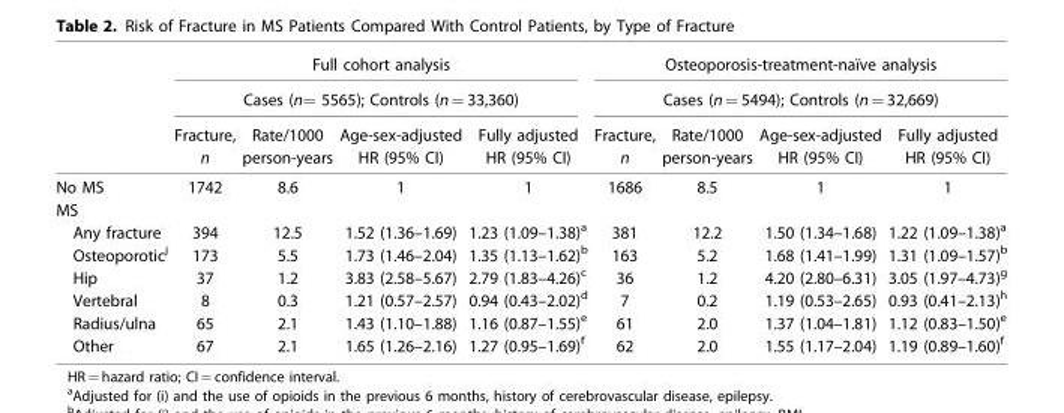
<table><thead><tr><td rowspan="3"></td><td rowspan="2" colspan="4">Full cohort analysis Cases (n¼ 5565); Controls (n ¼ 33,360)</td><td rowspan="2" colspan="4">Osteoporosis-treatment-naı¨ve analysis Cases (n ¼ 5494); Controls (n ¼ 32,669)</td></tr><tr></tr><tr><td>Fracture, n</td><td>Rate/1000 person-years</td><td>Age-sex-adjusted HR (95% CI)</td><td>Fully adjusted HR (95% CI)</td><td>Fracture, n</td><td>Rate/1000 person-years</td><td>Age-sex-adjusted HR (95% CI)</td><td>Fully adjusted HR (95% CI)</td></tr></thead><tbody><tr><td>No MS</td><td>1742</td><td>8.6</td><td>1</td><td>1</td><td>1686</td><td>8.5</td><td>1</td><td>1</td></tr><tr><td colspan="9">MS</td></tr><tr><td>Any fracture</td><td>394</td><td>12.5</td><td>1.52 (1.36–1.69)</td><td>1.23 (1.09–1.38)<sup>a</sup></td><td>381</td><td>12.2</td><td>1.50 (1.34–1.68)</td><td>1.22 (1.09–1.38)<sup>a</sup></td></tr><tr><td>Osteoporotic<sup>j</sup></td><td>173</td><td>5.5</td><td>1.73 (1.46–2.04)</td><td>1.35 (1.13–1.62)<sup>b</sup></td><td>163</td><td>5.2</td><td>1.68 (1.41–1.99)</td><td>1.31 (1.09–1.57)<sup>b</sup></td></tr><tr><td>Hip</td><td>37</td><td>1.2</td><td>3.83 (2.58–5.67)</td><td>2.79 (1.83–4.26)<sup>c</sup></td><td>36</td><td>1.2</td><td>4.20 (2.80–6.31)</td><td>3.05 (1.97–4.73)<sup>g</sup></td></tr><tr><td>Vertebral</td><td>8</td><td>0.3</td><td>1.21 (0.57–2.57)</td><td>0.94 (0.43–2.02)<sup>d</sup></td><td>7</td><td>0.2</td><td>1.19 (0.53–2.65)</td><td>0.93 (0.41–2.13)<sup>h</sup></td></tr><tr><td>Radius/ulna</td><td>65</td><td>2.1</td><td>1.43 (1.10–1.88)</td><td>1.16 (0.87–1.55)<sup>e</sup></td><td>61</td><td>2.0</td><td>1.37 (1.04–1.81)</td><td>1.12 (0.83–1.50)<sup>e</sup></td></tr><tr><td>Other</td><td>67</td><td>2.1</td><td>1.65 (1.26–2.16)</td><td>1.27 (0.95–1.69)<sup>f</sup></td><td>62</td><td>2.0</td><td>1.55 (1.17–2.04)</td><td>1.19 (0.89–1.60)<sup>f</sup></td></tr></tbody></table>